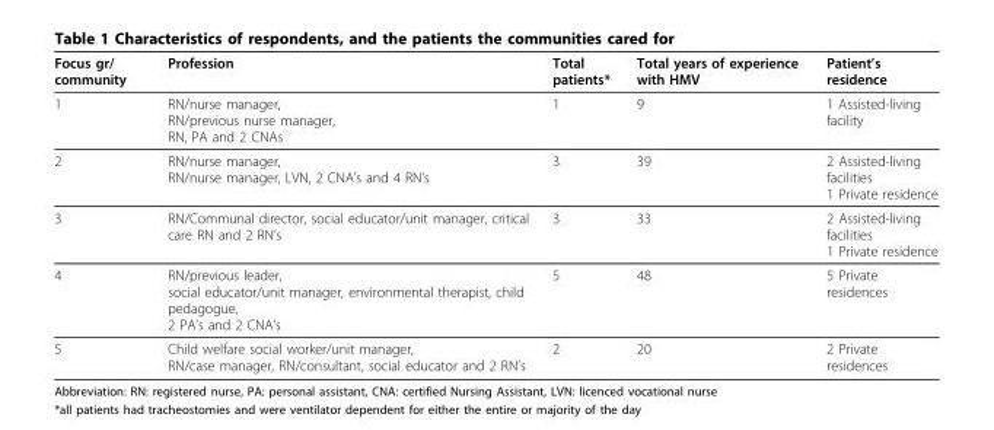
<table><thead><tr><td>Focus gr/ community</td><td>Profession</td><td>Total patients*</td><td>Total years of experience with HMV</td><td>Patient’s residence</td></tr></thead><tbody><tr><td>1</td><td>RN/nurse manager, RN/previous nurse manager, RN, PA and 2 CNAs</td><td>1</td><td>9</td><td>1 Assisted-living facility</td></tr><tr><td>2</td><td>RN/nurse manager, RN/nurse manager, LVN, 2 CNA’s and 4 RN’s</td><td>3</td><td>39</td><td>2 Assisted-living facilities 1 Private residence</td></tr><tr><td>3</td><td>RN/Communal director, social educator/unit manager, critical care RN and 2 RN’s</td><td>3</td><td>33</td><td>2 Assisted-living facilities 1 Private residence</td></tr><tr><td>4</td><td>RN/previous leader, social educator/unit manager, environmental therapist, child pedagogue, 2 PA’s and 2 CNA’s</td><td>5</td><td>48</td><td>5 Private residences</td></tr><tr><td>5</td><td>Child welfare social worker/unit manager, RN/case manager, RN/consultant, social educator and 2 RN’s</td><td>2</td><td>20</td><td>2 Private residences</td></tr></tbody></table>